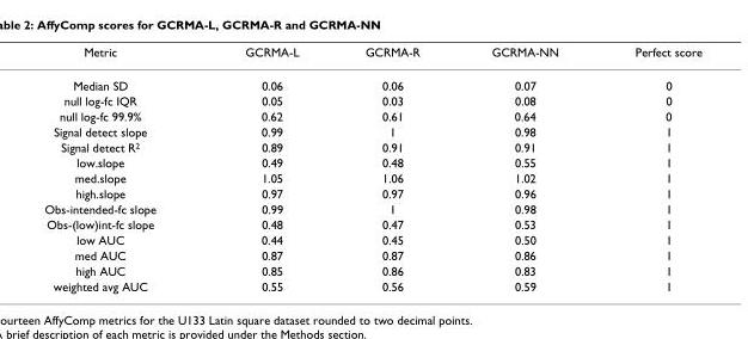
<table><thead><tr><td>Metric</td><td>GCRMA-L</td><td>GCRMA-R</td><td>GCRMA-NN</td><td>Perfect score</td></tr></thead><tbody><tr><td>Median SD</td><td>0.06</td><td>0.06</td><td>0.07</td><td>0</td></tr><tr><td>null log-fc IQR</td><td>0.05</td><td>0.03</td><td>0.08</td><td>0</td></tr><tr><td>null log-fc 99.9%</td><td>0.62</td><td>0.61</td><td>0.64</td><td>0</td></tr><tr><td>Signal detect slope</td><td>0.99</td><td>1</td><td>0.98</td><td>1</td></tr><tr><td>Signal detect R<sup>2</sup></td><td>0.89</td><td>0.91</td><td>0.91</td><td>1</td></tr><tr><td>low.slope</td><td>0.49</td><td>0.48</td><td>0.55</td><td>1</td></tr><tr><td>med.slope</td><td>1.05</td><td>1.06</td><td>1.02</td><td>1</td></tr><tr><td>high.slope</td><td>0.97</td><td>0.97</td><td>0.96</td><td>1</td></tr><tr><td>Obs-intended-fc slope</td><td>0.99</td><td>1</td><td>0.98</td><td>1</td></tr><tr><td>Obs-(low)int-fc slope</td><td>0.48</td><td>0.47</td><td>0.53</td><td>1</td></tr><tr><td>low AUC</td><td>0.44</td><td>0.45</td><td>0.50</td><td>1</td></tr><tr><td>med AUC</td><td>0.87</td><td>0.87</td><td>0.86</td><td>1</td></tr><tr><td>high AUC</td><td>0.85</td><td>0.86</td><td>0.83</td><td>1</td></tr><tr><td>weighted avg AUC</td><td>0.55</td><td>0.56</td><td>0.59</td><td>1</td></tr></tbody></table>